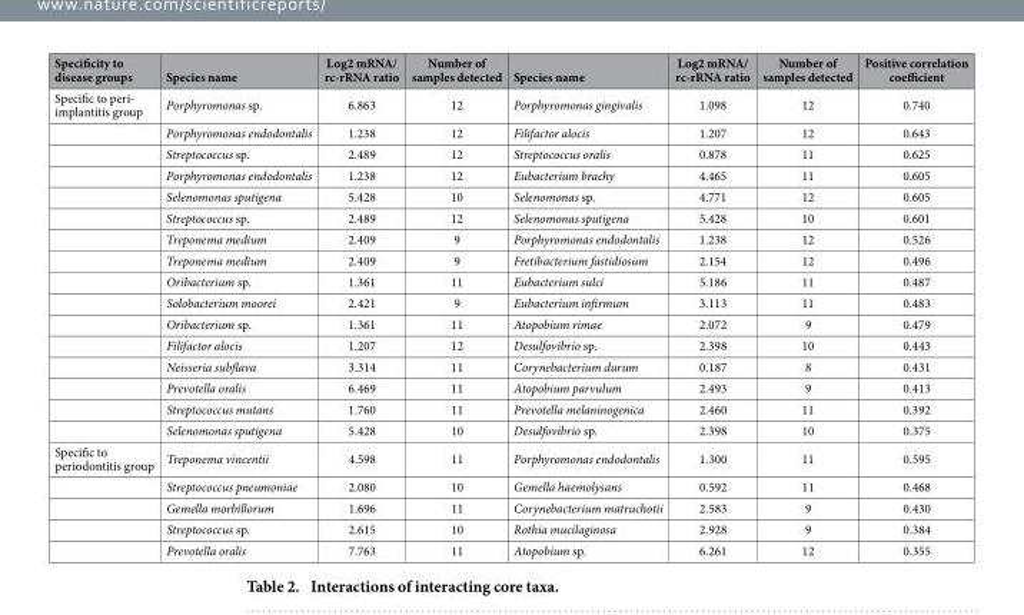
<table><thead><tr><td>Specificity to disease groups</td><td>Species name</td><td>Log2 mRNA/ rc-rRNA ratio</td><td>Number of samples detected</td><td>Species name</td><td>Log2 mRNA/ rc-rRNA ratio</td><td>Number of samples detected</td><td>Positive correlation coefficient</td></tr></thead><tbody><tr><td rowspan="16">Specific to peri- implantitis group</td><td>Porphyromonas sp.</td><td>6.863</td><td>12</td><td>Porphyromonas gingivalis</td><td>1.098</td><td>12</td><td>0.740</td></tr><tr><td>Porphyromonas endodontalis</td><td>1.238</td><td>12</td><td>Filifactor alocis</td><td>1.207</td><td>12</td><td>0.643</td></tr><tr><td>Streptococcus sp.</td><td>2.489</td><td>12</td><td>Streptococcus oralis</td><td>0.878</td><td>11</td><td>0.625</td></tr><tr><td>Porphyromonas endodontalis</td><td>1.238</td><td>12</td><td>Eubacterium brachy</td><td>4.465</td><td>11</td><td>0.605</td></tr><tr><td>Selenomonas sputigena</td><td>5.428</td><td>10</td><td>Selenomonas sp.</td><td>4.771</td><td>12</td><td>0.605</td></tr><tr><td>Streptococcus sp.</td><td>2.489</td><td>12</td><td>Selenomonas sputigena</td><td>5.428</td><td>10</td><td>0.601</td></tr><tr><td>Treponema medium</td><td>2.409</td><td>9</td><td>Porphyromonas endodontalis</td><td>1.238</td><td>12</td><td>0.526</td></tr><tr><td>Treponema medium</td><td>2.409</td><td>9</td><td>Fretibacterium fastidiosum</td><td>2.154</td><td>12</td><td>0.496</td></tr><tr><td>Oribacterium sp.</td><td>1.361</td><td>11</td><td>Eubacterium sulci</td><td>5.186</td><td>11</td><td>0.487</td></tr><tr><td>Solobacterium moorei</td><td>2.421</td><td>9</td><td>Eubacterium infirmum</td><td>3.113</td><td>11</td><td>0.483</td></tr><tr><td>Oribacterium sp.</td><td>1.361</td><td>11</td><td>Atopobium rimae</td><td>2.072</td><td>9</td><td>0.479</td></tr><tr><td>Filifactor alocis</td><td>1.207</td><td>12</td><td>Desulfovibrio sp.</td><td>2.398</td><td>10</td><td>0.443</td></tr><tr><td>Neisseria subflava</td><td>3.314</td><td>11</td><td>Corynebacterium durum</td><td>0.187</td><td>8</td><td>0.431</td></tr><tr><td>Prevotella oralis</td><td>6.469</td><td>11</td><td>Atopobium parvulum</td><td>2.493</td><td>9</td><td>0.413</td></tr><tr><td>Streptococcus mutans</td><td>1.760</td><td>11</td><td>Prevotella melaninogenica</td><td>2.460</td><td>11</td><td>0.392</td></tr><tr><td>Selenomonas sputigena</td><td>5.428</td><td>10</td><td>Desulfovibrio sp.</td><td>2.398</td><td>10</td><td>0.375</td></tr><tr><td rowspan="5">Specific to periodontitis group</td><td>Treponema vincentii</td><td>4.598</td><td>11</td><td>Porphyromonas endodontalis</td><td>1.300</td><td>11</td><td>0.595</td></tr><tr><td>Streptococcus pneumoniae</td><td>2.080</td><td>10</td><td>Gemella haemolysans</td><td>0.592</td><td>11</td><td>0.468</td></tr><tr><td>Gemella morbillorum</td><td>1.696</td><td>11</td><td>Corynebacterium matruchotii</td><td>2.583</td><td>9</td><td>0.430</td></tr><tr><td>Streptococcus sp.</td><td>2.615</td><td>10</td><td>Rothia mucilaginosa</td><td>2.928</td><td>9</td><td>0.384</td></tr><tr><td>Prevotella oralis</td><td>7.763</td><td>11</td><td>Atopobium sp.</td><td>6.261</td><td>12</td><td>0.355</td></tr></tbody></table>